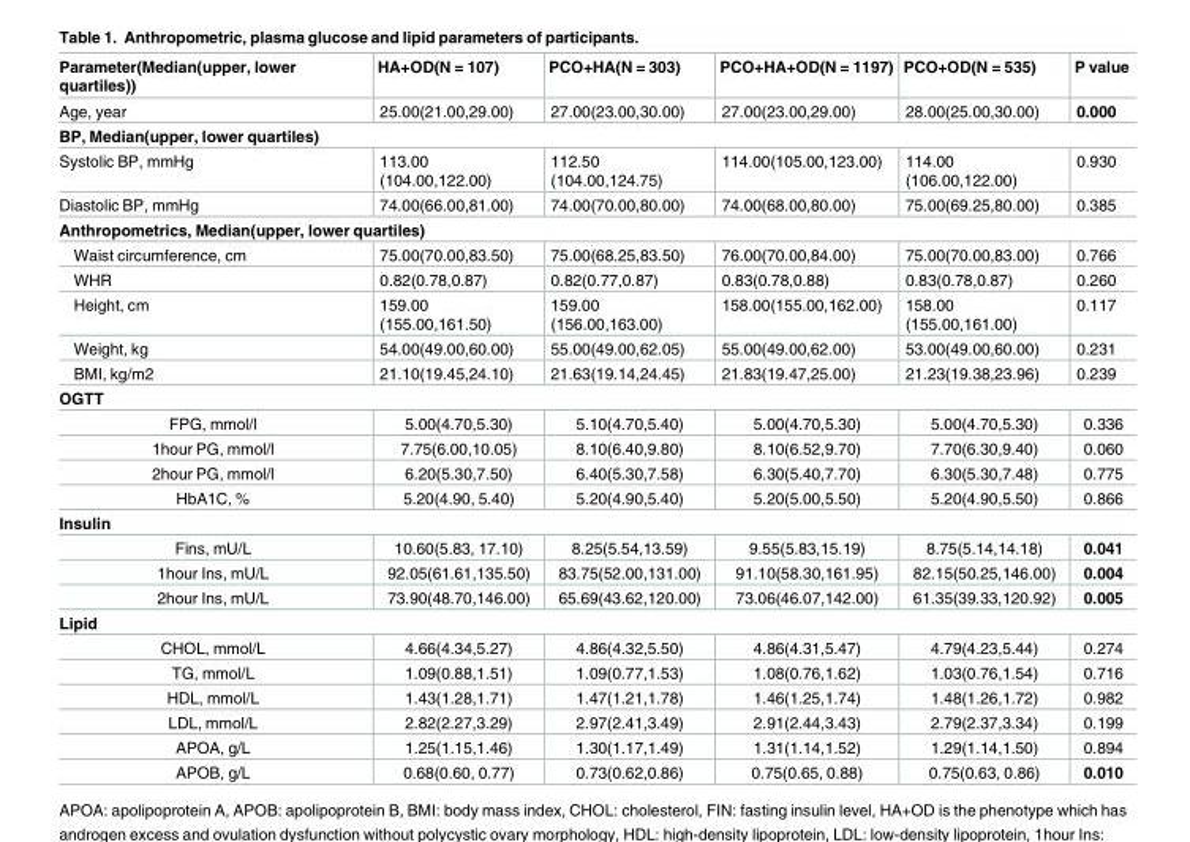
<table><thead><tr><td>Parameter(Median(upper, lower quartiles))</td><td>HA+OD(N = 107)</td><td>PCO+HA(N = 303)</td><td>PCO+HA+OD(N = 1197)</td><td>PCO+OD(N = 535)</td><td>P value</td></tr></thead><tbody><tr><td>Age, year</td><td>25.00(21.00,29.00)</td><td>27.00(23.00,30.00)</td><td>27.00(23.00,29.00)</td><td>28.00(25.00,30.00)</td><td>0.000</td></tr><tr><td colspan="6">BP, Median(upper, lower quartiles)</td></tr><tr><td>Systolic BP, mmHg</td><td>113.00 (104.00,122.00)</td><td>112.50 (104.00,124.75)</td><td>114.00(105.00,123.00)</td><td>114.00 (106.00,122.00)</td><td>0.930</td></tr><tr><td>Diastolic BP, mmHg</td><td>74.00(66.00,81.00)</td><td>74.00(70.00,80.00)</td><td>74.00(68.00,80.00)</td><td>75.00(69.25,80.00)</td><td>0.385</td></tr><tr><td colspan="6">Anthropometrics, Median(upper, lower quartiles)</td></tr><tr><td>Waist circumference, cm</td><td>75.00(70.00,83.50)</td><td>75.00(68.25,83.50)</td><td>76.00(70.00,84.00)</td><td>75.00(70.00,83.00)</td><td>0.766</td></tr><tr><td>WHR</td><td>0.82(0.78,0.87)</td><td>0.82(0.77,0.87)</td><td>0.83(0.78,0.88)</td><td>0.83(0.78,0.87)</td><td>0.260</td></tr><tr><td>Height, cm</td><td>159.00 (155.00,161.50)</td><td>159.00 (156.00,163.00)</td><td>158.00(155.00,162.00)</td><td>158.00 (155.00,161.00)</td><td>0.117</td></tr><tr><td>Weight, kg</td><td>54.00(49.00,60.00)</td><td>55.00(49.00,62.05)</td><td>55.00(49.00,62.00)</td><td>53.00(49.00,60.00)</td><td>0.231</td></tr><tr><td>BMI, kg/m2</td><td>21.10(19.45,24.10)</td><td>21.63(19.14,24.45)</td><td>21.83(19.47,25.00)</td><td>21.23(19.38,23.96)</td><td>0.239</td></tr><tr><td colspan="6">OGTT</td></tr><tr><td>FPG, mmol/l</td><td>5.00(4.70,5.30)</td><td>5.10(4.70,5.40)</td><td>5.00(4.70,5.30)</td><td>5.00(4.70,5.30)</td><td>0.336</td></tr><tr><td>1hour PG, mmol/l</td><td>7.75(6.00,10.05)</td><td>8.10(6.40,9.80)</td><td>8.10(6.52,9.70)</td><td>7.70(6.30,9.40)</td><td>0.060</td></tr><tr><td>2hour PG, mmol/l</td><td>6.20(5.30,7.50)</td><td>6.40(5.30,7.58)</td><td>6.30(5.40,7.70)</td><td>6.30(5.30,7.48)</td><td>0.775</td></tr><tr><td>HbA1C, %</td><td>5.20(4.90, 5.40)</td><td>5.20(4.90,5.40)</td><td>5.20(5.00,5.50)</td><td>5.20(4.90,5.50)</td><td>0.866</td></tr><tr><td colspan="6">Insulin</td></tr><tr><td>Fins, mU/L</td><td>10.60(5.83, 17.10)</td><td>8.25(5.54,13.59)</td><td>9.55(5.83,15.19)</td><td>8.75(5.14,14.18)</td><td>0.041</td></tr><tr><td>1hour Ins, mU/L</td><td>92.05(61.61,135.50)</td><td>83.75(52.00,131.00)</td><td>91.10(58.30,161.95)</td><td>82.15(50.25,146.00)</td><td>0.004</td></tr><tr><td>2hour Ins, mU/L</td><td>73.90(48.70,146.00)</td><td>65.69(43.62,120.00)</td><td>73.06(46.07,142.00)</td><td>61.35(39.33,120.92)</td><td>0.005</td></tr><tr><td colspan="6">Lipid</td></tr><tr><td>CHOL, mmol/L</td><td>4.66(4.34,5.27)</td><td>4.86(4.32,5.50)</td><td>4.86(4.31,5.47)</td><td>4.79(4.23,5.44)</td><td>0.274</td></tr><tr><td>TG, mmol/L</td><td>1.09(0.88,1.51)</td><td>1.09(0.77,1.53)</td><td>1.08(0.76,1.62)</td><td>1.03(0.76,1.54)</td><td>0.716</td></tr><tr><td>HDL, mmol/L</td><td>1.43(1.28,1.71)</td><td>1.47(1.21,1.78)</td><td>1.46(1.25,1.74)</td><td>1.48(1.26,1.72)</td><td>0.982</td></tr><tr><td>LDL, mmol/L</td><td>2.82(2.27,3.29)</td><td>2.97(2.41,3.49)</td><td>2.91(2.44,3.43)</td><td>2.79(2.37,3.34)</td><td>0.199</td></tr><tr><td>APOA, g/L</td><td>1.25(1.15,1.46)</td><td>1.30(1.17,1.49)</td><td>1.31(1.14,1.52)</td><td>1.29(1.14,1.50)</td><td>0.894</td></tr><tr><td>APOB, g/L</td><td>0.68(0.60, 0.77)</td><td>0.73(0.62,0.86)</td><td>0.75(0.65, 0.88)</td><td>0.75(0.63, 0.86)</td><td>0.010</td></tr></tbody></table>